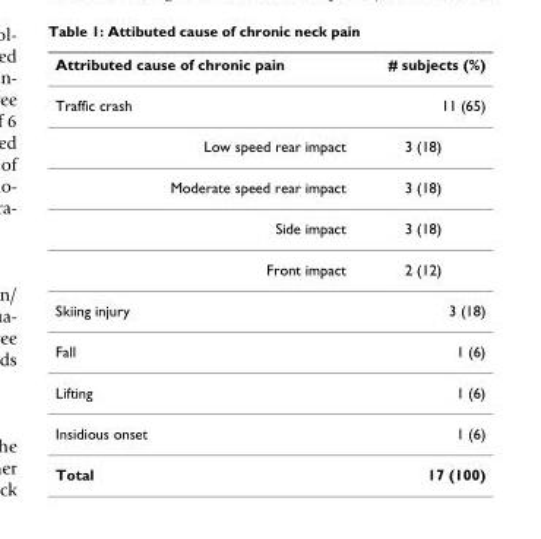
<table><thead><tr><td>Attributed cause of chronic pain</td><td># subjects (%)</td></tr></thead><tbody><tr><td>Traffic crash</td><td>11 (65)</td></tr><tr><td>Low speed rear impact</td><td>3 (18)</td></tr><tr><td>Moderate speed rear impact</td><td>3 (18)</td></tr><tr><td>Side impact</td><td>3 (18)</td></tr><tr><td>Front impact</td><td>2 (12)</td></tr><tr><td>Skiing injury</td><td>3 (18)</td></tr><tr><td>Fall</td><td>1 (6)</td></tr><tr><td>Lifting</td><td>1 (6)</td></tr><tr><td>Insidious onset</td><td>1 (6)</td></tr><tr><td>Total</td><td>17 (100)</td></tr></tbody></table>